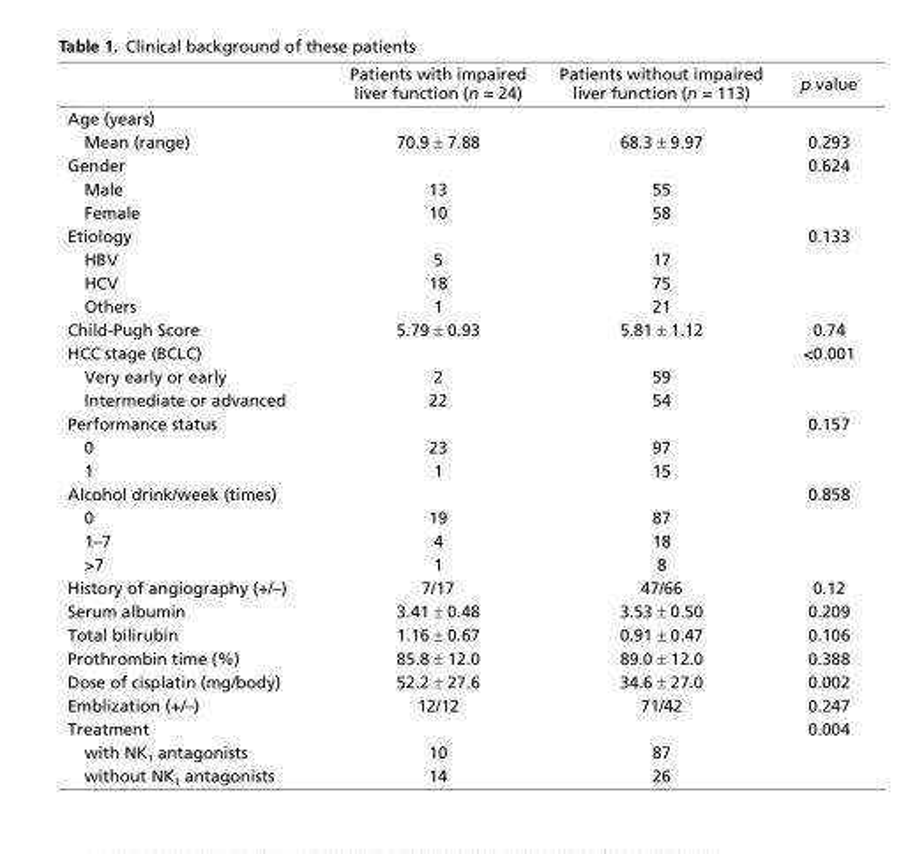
<table><thead><tr><td></td><td>Patients with impaired liver function (n = 24)</td><td>Patients without impaired liver function (n = 113)</td><td>p value</td></tr></thead><tbody><tr><td colspan="4">Age (years)</td></tr><tr><td>Mean (range)</td><td>70.9 ± 7.88</td><td>68.3 ± 9.97</td><td>0.293</td></tr><tr><td>Gender</td><td></td><td></td><td>0.624</td></tr><tr><td>Male</td><td>13</td><td>55</td><td></td></tr><tr><td>Female</td><td>10</td><td>58</td><td></td></tr><tr><td>Etiology</td><td></td><td></td><td>0.133</td></tr><tr><td>HBV</td><td>5</td><td>17</td><td></td></tr><tr><td>HCV</td><td>18</td><td>75</td><td></td></tr><tr><td>Others</td><td>1</td><td>21</td><td></td></tr><tr><td>Child-Pugh Score</td><td>5.79 ± 0.93</td><td>5.81 ± 1.12</td><td>0.74</td></tr><tr><td>HCC stage (BCLC)</td><td></td><td></td><td>&lt;0.001</td></tr><tr><td>Very early or early</td><td>2</td><td>59</td><td></td></tr><tr><td>Intermediate or advanced</td><td>22</td><td>54</td><td></td></tr><tr><td>Performance status</td><td></td><td></td><td>0.157</td></tr><tr><td>0</td><td>23</td><td>97</td><td></td></tr><tr><td>1</td><td>1</td><td>15</td><td></td></tr><tr><td>Alcohol drink/week (times)</td><td></td><td></td><td>0.858</td></tr><tr><td>0</td><td>19</td><td>87</td><td></td></tr><tr><td>1–7</td><td>4</td><td>18</td><td></td></tr><tr><td>&gt;7</td><td>1</td><td>8</td><td></td></tr><tr><td>History of angiography (+/–)</td><td>7/17</td><td>47/66</td><td>0.12</td></tr><tr><td>Serum albumin</td><td>3.41 ± 0.48</td><td>3.53 ± 0.50</td><td>0.209</td></tr><tr><td>Total bilirubin</td><td>1.16 ± 0.67</td><td>0.91 ± 0.47</td><td>0.106</td></tr><tr><td>Prothrombin time (%)</td><td>85.8 ± 12.0</td><td>89.0 ± 12.0</td><td>0.388</td></tr><tr><td>Dose of cisplatin (mg/body)</td><td>52.2 ± 27.6</td><td>34.6 ± 27.0</td><td>0.002</td></tr><tr><td>Emblization (+/–)</td><td>12/12</td><td>71/42</td><td>0.247</td></tr><tr><td>Treatment</td><td></td><td></td><td>0.004</td></tr><tr><td>with NK<sub>1</sub> antagonists</td><td>10</td><td>87</td><td></td></tr><tr><td>without NK<sub>1</sub> antagonists</td><td>14</td><td>26</td><td></td></tr></tbody></table>